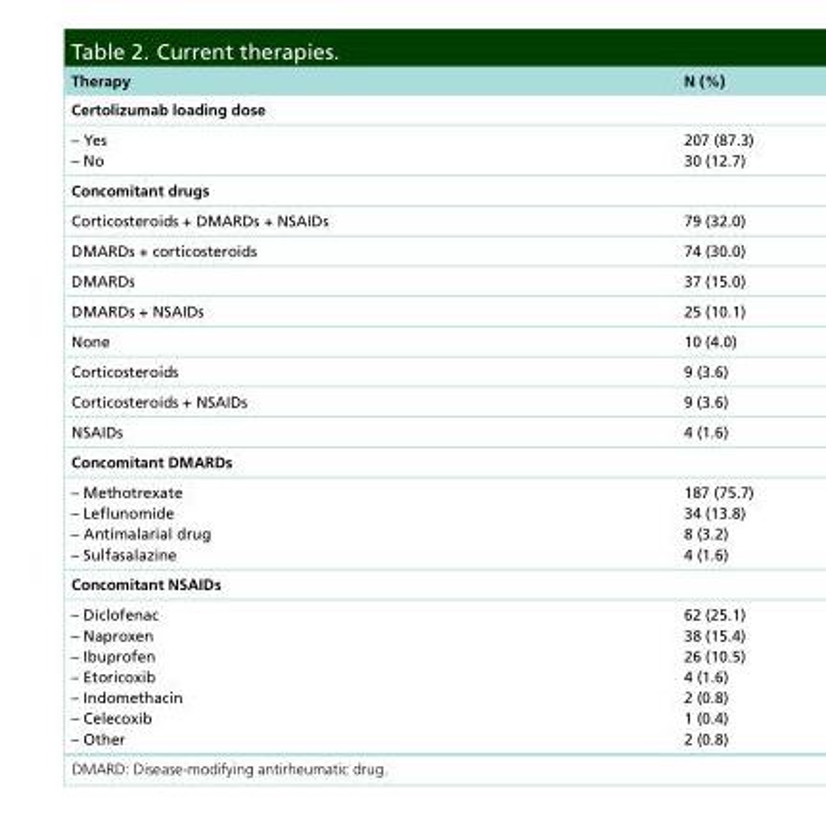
<table><thead><tr><td>Therapy</td><td>N (%)</td></tr></thead><tbody><tr><td colspan="2">Certolizumab loading dose</td></tr><tr><td>– Yes – No</td><td>207 (87.3) 30 (12.7)</td></tr><tr><td colspan="2">Concomitant drugs</td></tr><tr><td>Corticosteroids + DMARDs + NSAIDs</td><td>79 (32.0)</td></tr><tr><td>DMARDs + corticosteroids</td><td>74 (30.0)</td></tr><tr><td>DMARDs</td><td>37 (15.0)</td></tr><tr><td>DMARDs + NSAIDs</td><td>25 (10.1)</td></tr><tr><td>None</td><td>10 (4.0)</td></tr><tr><td>Corticosteroids</td><td>9 (3.6)</td></tr><tr><td>Corticosteroids + NSAIDs</td><td>9 (3.6)</td></tr><tr><td>NSAIDs</td><td>4 (1.6)</td></tr><tr><td colspan="2">Concomitant DMARDs</td></tr><tr><td>– Methotrexate – Leflunomide – Antimalarial drug – Sulfasalazine</td><td>187 (75.7) 34 (13.8) 8 (3.2) 4 (1.6)</td></tr><tr><td colspan="2">Concomitant NSAIDs</td></tr><tr><td>– Diclofenac – Naproxen – Ibuprofen – Etoricoxib – Indomethacin – Celecoxib – Other</td><td>62 (25.1) 38 (15.4) 26 (10.5) 4 (1.6) 2 (0.8) 1 (0.4) 2 (0.8)</td></tr></tbody></table>